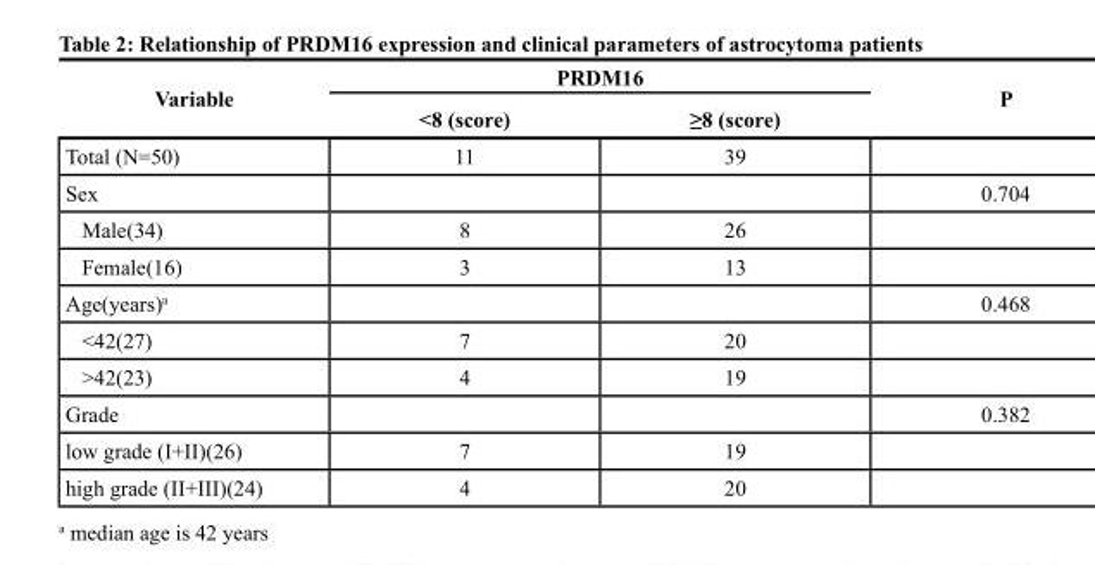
<table><thead><tr><td rowspan="2">Variable</td><td colspan="2">PRDM16</td><td rowspan="2">P</td></tr><tr><td>&lt;8 (score)</td><td>≥8 (score)</td></tr></thead><tbody><tr><td>Total (N=50)</td><td>11</td><td>39</td><td></td></tr><tr><td>Sex</td><td></td><td></td><td>0.704</td></tr><tr><td>Male(34)</td><td>8</td><td>26</td><td></td></tr><tr><td>Female(16)</td><td>3</td><td>13</td><td></td></tr><tr><td>Age(years)<sup>a</sup></td><td></td><td></td><td>0.468</td></tr><tr><td>&lt;42(27)</td><td>7</td><td>20</td><td></td></tr><tr><td>&gt;42(23)</td><td>4</td><td>19</td><td></td></tr><tr><td>Grade</td><td></td><td></td><td>0.382</td></tr><tr><td>low grade (I+II)(26)</td><td>7</td><td>19</td><td></td></tr><tr><td>high grade (II+III)(24)</td><td>4</td><td>20</td><td></td></tr></tbody></table>